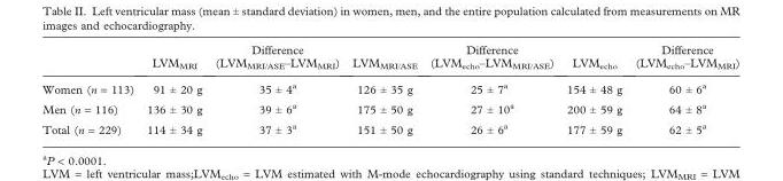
<table><thead><tr><td></td><td>LVM<sub>MRI</sub></td><td>Difference (LVM<sub>MRI/ASE</sub>–LVM<sub>MRI</sub>)</td><td>LVM<sub>MRI/ASE</sub></td><td>Difference (LVM<sub>echo</sub>–LVM<sub>MRI/ASE</sub>)</td><td>LVM<sub>echo</sub></td><td>Difference (LVM<sub>echo</sub>–LVM<sub>MRI</sub>)</td></tr></thead><tbody><tr><td>Women (n = 113)</td><td>91 ± 20 g</td><td>35 ± 4<sup>a</sup></td><td>126 ± 35 g</td><td>25 ± 7<sup>a</sup></td><td>154 ± 48 g</td><td>60 ± 6<sup>a</sup></td></tr><tr><td>Men (n = 116)</td><td>136 ± 30 g</td><td>39 ± 6<sup>a</sup></td><td>175 ± 50 g</td><td>27 ± 10<sup>a</sup></td><td>200 ± 59 g</td><td>64 ± 8<sup>a</sup></td></tr><tr><td>Total (n = 229)</td><td>114 ± 34 g</td><td>37 ± 3<sup>a</sup></td><td>151 ± 50 g</td><td>26 ± 6<sup>a</sup></td><td>177 ± 59 g</td><td>62 ± 5<sup>a</sup></td></tr></tbody></table>